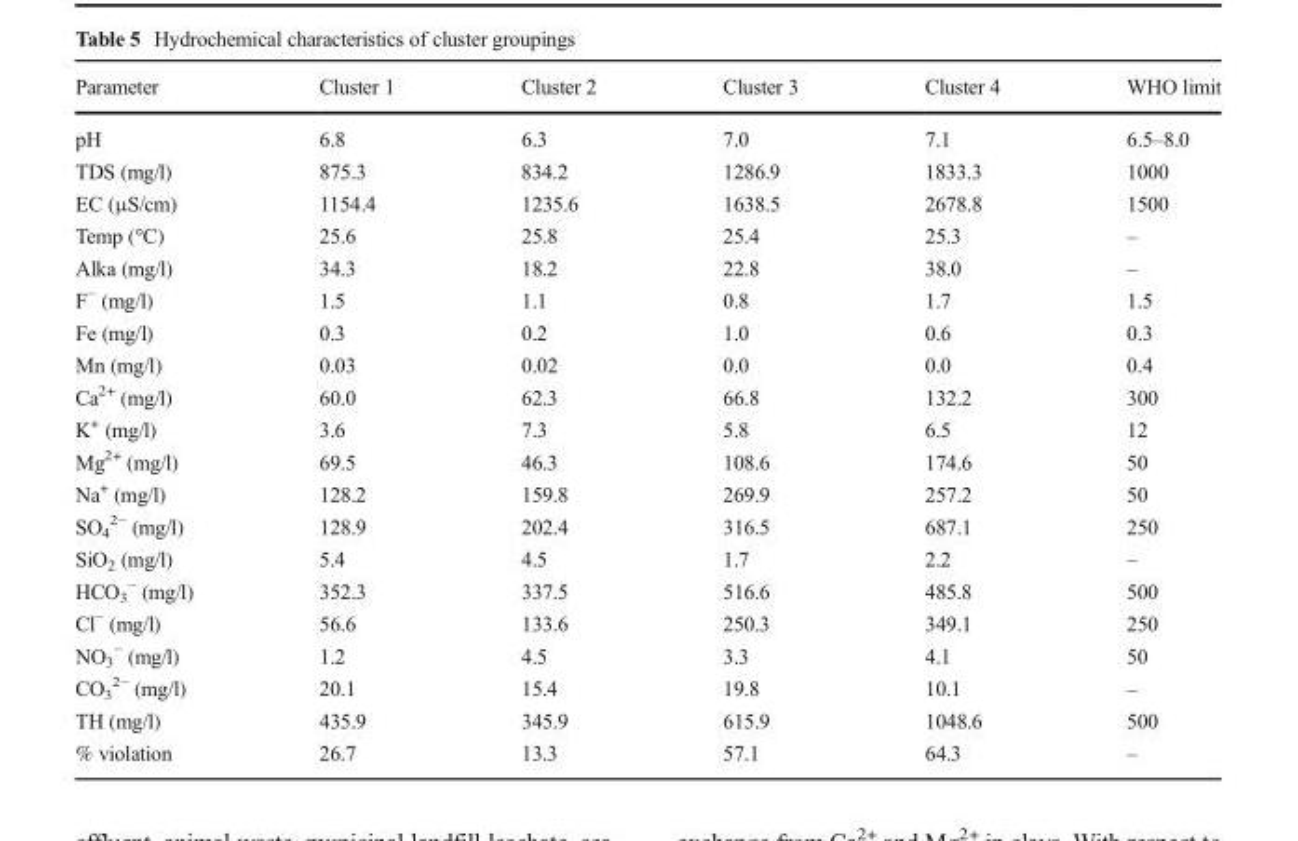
<table><thead><tr><td>Parameter</td><td>Cluster 1</td><td>Cluster 2</td><td>Cluster 3</td><td>Cluster 4</td><td>WHO limit</td></tr></thead><tbody><tr><td>pH</td><td>6.8</td><td>6.3</td><td>7.0</td><td>7.1</td><td>6.5–8.0</td></tr><tr><td>TDS (mg/l)</td><td>875.3</td><td>834.2</td><td>1286.9</td><td>1833.3</td><td>1000</td></tr><tr><td>EC (μS/cm)</td><td>1154.4</td><td>1235.6</td><td>1638.5</td><td>2678.8</td><td>1500</td></tr><tr><td>Temp (°C)</td><td>25.6</td><td>25.8</td><td>25.4</td><td>25.3</td><td>–</td></tr><tr><td>Alka (mg/l)</td><td>34.3</td><td>18.2</td><td>22.8</td><td>38.0</td><td>–</td></tr><tr><td>F<sup>−</sup> (mg/l)</td><td>1.5</td><td>1.1</td><td>0.8</td><td>1.7</td><td>1.5</td></tr><tr><td>Fe (mg/l)</td><td>0.3</td><td>0.2</td><td>1.0</td><td>0.6</td><td>0.3</td></tr><tr><td>Mn (mg/l)</td><td>0.03</td><td>0.02</td><td>0.0</td><td>0.0</td><td>0.4</td></tr><tr><td>Ca<sup>2+</sup> (mg/l)</td><td>60.0</td><td>62.3</td><td>66.8</td><td>132.2</td><td>300</td></tr><tr><td>K<sup>+</sup> (mg/l)</td><td>3.6</td><td>7.3</td><td>5.8</td><td>6.5</td><td>12</td></tr><tr><td>Mg<sup>2+</sup> (mg/l)</td><td>69.5</td><td>46.3</td><td>108.6</td><td>174.6</td><td>50</td></tr><tr><td>Na<sup>+</sup> (mg/l)</td><td>128.2</td><td>159.8</td><td>269.9</td><td>257.2</td><td>50</td></tr><tr><td>SO<sub>4</sub> <sup>2−</sup> (mg/l)</td><td>128.9</td><td>202.4</td><td>316.5</td><td>687.1</td><td>250</td></tr><tr><td>SiO<sub>2</sub> (mg/l)</td><td>5.4</td><td>4.5</td><td>1.7</td><td>2.2</td><td>–</td></tr><tr><td>HCO<sub>3</sub> <sup>−</sup> (mg/l)</td><td>352.3</td><td>337.5</td><td>516.6</td><td>485.8</td><td>500</td></tr><tr><td>Cl<sup>−</sup> (mg/l)</td><td>56.6</td><td>133.6</td><td>250.3</td><td>349.1</td><td>250</td></tr><tr><td>NO<sub>3</sub> <sup>−</sup> (mg/l)</td><td>1.2</td><td>4.5</td><td>3.3</td><td>4.1</td><td>50</td></tr><tr><td>CO<sub>3</sub> <sup>2−</sup> (mg/l)</td><td>20.1</td><td>15.4</td><td>19.8</td><td>10.1</td><td>–</td></tr><tr><td>TH (mg/l)</td><td>435.9</td><td>345.9</td><td>615.9</td><td>1048.6</td><td>500</td></tr><tr><td>% violation</td><td>26.7</td><td>13.3</td><td>57.1</td><td>64.3</td><td>–</td></tr></tbody></table>